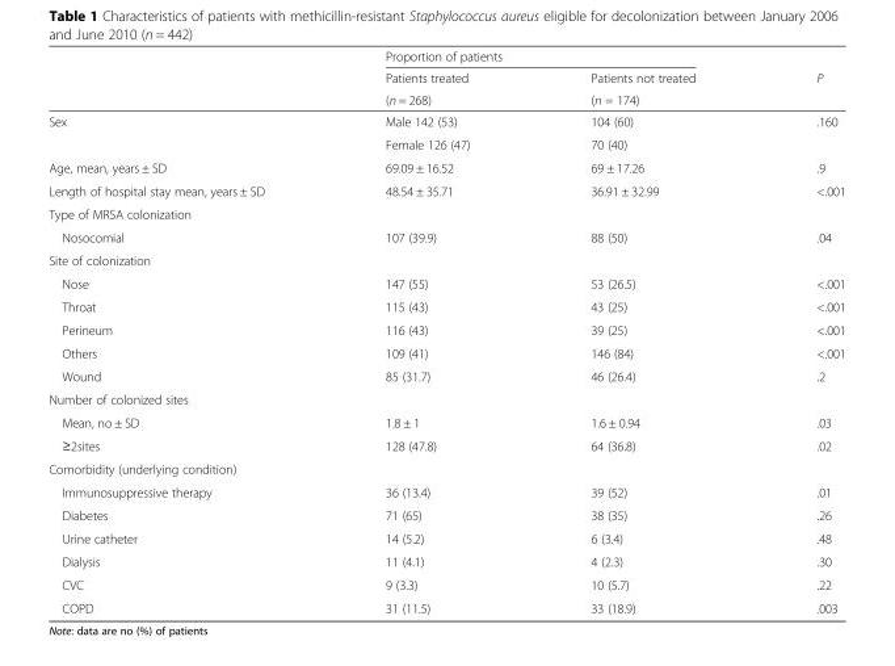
<table><thead><tr><td rowspan="3"></td><td colspan="2">Proportion of patients</td><td rowspan="3">P</td></tr><tr><td rowspan="2">Patients treated (n = 268)</td><td rowspan="2">Patients not treated (n = 174)</td></tr><tr></tr></thead><tbody><tr><td rowspan="2">Sex</td><td>Male 142 (53)</td><td>104 (60)</td><td>.160</td></tr><tr><td>Female 126 (47)</td><td>70 (40)</td><td></td></tr><tr><td>Age, mean, years ± SD</td><td>69.09 ± 16.52</td><td>69 ± 17.26</td><td>.9</td></tr><tr><td>Length of hospital stay mean, years ± SD</td><td>48.54 ± 35.71</td><td>36.91 ± 32.99</td><td>&lt;.001</td></tr><tr><td colspan="4">Type of MRSA colonization</td></tr><tr><td>Nosocomial</td><td>107 (39.9)</td><td>88 (50)</td><td>.04</td></tr><tr><td colspan="4">Site of colonization</td></tr><tr><td>Nose</td><td>147 (55)</td><td>53 (26.5)</td><td>&lt;.001</td></tr><tr><td>Throat</td><td>115 (43)</td><td>43 (25)</td><td>&lt;.001</td></tr><tr><td>Perineum</td><td>116 (43)</td><td>39 (25)</td><td>&lt;.001</td></tr><tr><td>Others</td><td>109 (41)</td><td>146 (84)</td><td>&lt;.001</td></tr><tr><td>Wound</td><td>85 (31.7)</td><td>46 (26.4)</td><td>.2</td></tr><tr><td colspan="4">Number of colonized sites</td></tr><tr><td>Mean, no ± SD</td><td>1.8 ± 1</td><td>1.6 ± 0.94</td><td>.03</td></tr><tr><td>≥2sites</td><td>128 (47.8)</td><td>64 (36.8)</td><td>.02</td></tr><tr><td colspan="4">Comorbidity (underlying condition)</td></tr><tr><td>Immunosuppressive therapy</td><td>36 (13.4)</td><td>39 (52)</td><td>.01</td></tr><tr><td>Diabetes</td><td>71 (65)</td><td>38 (35)</td><td>.26</td></tr><tr><td>Urine catheter</td><td>14 (5.2)</td><td>6 (3.4)</td><td>.48</td></tr><tr><td>Dialysis</td><td>11 (4.1)</td><td>4 (2.3)</td><td>.30</td></tr><tr><td>CVC</td><td>9 (3.3)</td><td>10 (5.7)</td><td>.22</td></tr><tr><td>COPD</td><td>31 (11.5)</td><td>33 (18.9)</td><td>.003</td></tr></tbody></table>